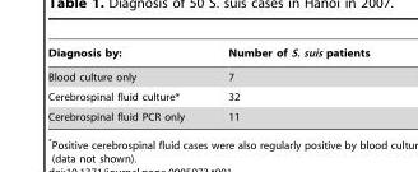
<table><thead><tr><td>Diagnosis by:</td><td>Number of S. suis patients</td></tr></thead><tbody><tr><td>Blood culture only</td><td>7</td></tr><tr><td>Cerebrospinal fluid culture*</td><td>32</td></tr><tr><td>Cerebrospinal fluid PCR only</td><td>11</td></tr></tbody></table>